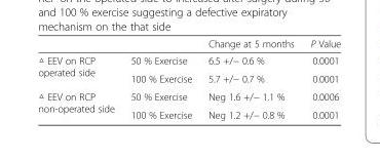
<table><thead><tr><td></td><td></td><td>Change at 5 months</td><td>P Value</td></tr></thead><tbody><tr><td rowspan="2">△ EEV on RCP operated side</td><td>50 % Exercise</td><td>6.5 +/− 0.6 %</td><td>0.0001</td></tr><tr><td>100 % Exercise</td><td>5.7 +/− 0.7 %</td><td>0.0001</td></tr><tr><td rowspan="2">△ EEV on RCP non-operated side</td><td>50 % Exercise</td><td>Neg 1.6 +/− 1.1 %</td><td>0.0006</td></tr><tr><td>100 % Exercise</td><td>Neg 1.2 +/− 0.8 %</td><td>0.0001</td></tr></tbody></table>